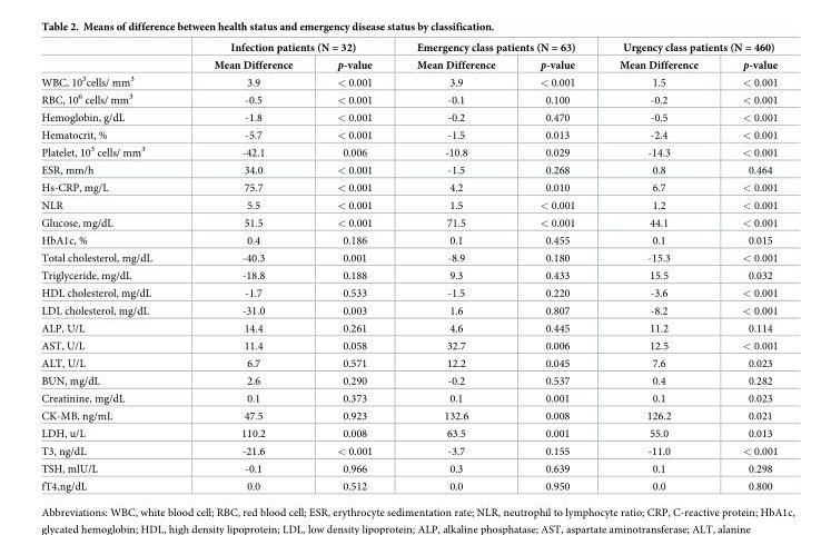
<table><thead><tr><td rowspan="2"></td><td colspan="2">Infection patients (N = 32)</td><td colspan="2">Emergency class patients (N = 63)</td><td colspan="2">Urgency class patients (N = 460)</td></tr><tr><td>Mean Difference</td><td>p-value</td><td>Mean Difference</td><td>p-value</td><td>Mean Difference</td><td>p-value</td></tr></thead><tbody><tr><td>WBC, 10<sup>3</sup>cells/ mm<sup>3</sup></td><td>3.9</td><td>&lt; 0.001</td><td>3.9</td><td>&lt; 0.001</td><td>1.5</td><td>&lt; 0.001</td></tr><tr><td>RBC, 10<sup>6</sup> cells/ mm<sup>3</sup></td><td>-0.5</td><td>&lt; 0.001</td><td>-0.1</td><td>0.100</td><td>-0.2</td><td>&lt; 0.001</td></tr><tr><td>Hemoglobin, g/dL</td><td>-1.8</td><td>&lt; 0.001</td><td>-0.2</td><td>0.470</td><td>-0.5</td><td>&lt; 0.001</td></tr><tr><td>Hematocrit, %</td><td>-5.7</td><td>&lt; 0.001</td><td>-1.5</td><td>0.013</td><td>-2.4</td><td>&lt; 0.001</td></tr><tr><td>Platelet, 10<sup>3</sup> cells/ mm<sup>3</sup></td><td>-42.1</td><td>0.006</td><td>-10.8</td><td>0.029</td><td>-14.3</td><td>&lt; 0.001</td></tr><tr><td>ESR, mm/h</td><td>34.0</td><td>&lt; 0.001</td><td>-1.5</td><td>0.268</td><td>0.8</td><td>0.464</td></tr><tr><td>Hs-CRP, mg/L</td><td>75.7</td><td>&lt; 0.001</td><td>4.2</td><td>0.010</td><td>6.7</td><td>&lt; 0.001</td></tr><tr><td>NLR</td><td>5.5</td><td>&lt; 0.001</td><td>1.5</td><td>&lt; 0.001</td><td>1.2</td><td>&lt; 0.001</td></tr><tr><td>Glucose, mg/dL</td><td>51.5</td><td>&lt; 0.001</td><td>71.5</td><td>&lt; 0.001</td><td>44.1</td><td>&lt; 0.001</td></tr><tr><td>HbA1c, %</td><td>0.4</td><td>0.186</td><td>0.1</td><td>0.455</td><td>0.1</td><td>0.015</td></tr><tr><td>Total cholesterol, mg/dL</td><td>-40.3</td><td>0.001</td><td>-8.9</td><td>0.180</td><td>-15.3</td><td>&lt; 0.001</td></tr><tr><td>Triglyceride, mg/dL</td><td>-18.8</td><td>0.188</td><td>9.3</td><td>0.433</td><td>15.5</td><td>0.032</td></tr><tr><td>HDL cholesterol, mg/dL</td><td>-1.7</td><td>0.533</td><td>-1.5</td><td>0.220</td><td>-3.6</td><td>&lt; 0.001</td></tr><tr><td>LDL cholesterol, mg/dL</td><td>-31.0</td><td>0.003</td><td>1.6</td><td>0.807</td><td>-8.2</td><td>&lt; 0.001</td></tr><tr><td>ALP, U/L</td><td>14.4</td><td>0.261</td><td>4.6</td><td>0.445</td><td>11.2</td><td>0.114</td></tr><tr><td>AST, U/L</td><td>11.4</td><td>0.058</td><td>32.7</td><td>0.006</td><td>12.5</td><td>&lt; 0.001</td></tr><tr><td>ALT, U/L</td><td>6.7</td><td>0.571</td><td>12.2</td><td>0.045</td><td>7.6</td><td>0.023</td></tr><tr><td>BUN, mg/dL</td><td>2.6</td><td>0.290</td><td>-0.2</td><td>0.537</td><td>0.4</td><td>0.282</td></tr><tr><td>Creatinine, mg/dL</td><td>0.1</td><td>0.373</td><td>0.1</td><td>0.001</td><td>0.1</td><td>0.023</td></tr><tr><td>CK-MB, ng/mL</td><td>47.5</td><td>0.923</td><td>132.6</td><td>0.008</td><td>126.2</td><td>0.021</td></tr><tr><td>LDH, u/L</td><td>110.2</td><td>0.008</td><td>63.5</td><td>0.001</td><td>55.0</td><td>0.013</td></tr><tr><td>T3, ng/dL</td><td>-21.6</td><td>&lt; 0.001</td><td>-3.7</td><td>0.155</td><td>-11.0</td><td>&lt; 0.001</td></tr><tr><td>TSH, mlU/L</td><td>-0.1</td><td>0.966</td><td>0.3</td><td>0.639</td><td>0.1</td><td>0.298</td></tr><tr><td>fT4,ng/dL</td><td>0.0</td><td>0.512</td><td>0.0</td><td>0.950</td><td>0.0</td><td>0.800</td></tr></tbody></table>